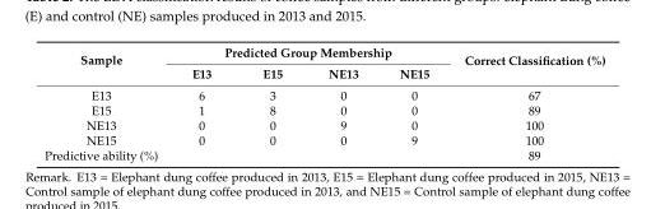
<table><thead><tr><td rowspan="2">Sample</td><td colspan="4">Predicted Group Membership</td><td rowspan="2">Correct Classification (%)</td></tr><tr><td>E13</td><td>E15</td><td>NE13</td><td>NE15</td></tr></thead><tbody><tr><td>E13</td><td>6</td><td>3</td><td>0</td><td>0</td><td>67</td></tr><tr><td>E15</td><td>1</td><td>8</td><td>0</td><td>0</td><td>89</td></tr><tr><td>NE13</td><td>0</td><td>0</td><td>9</td><td>0</td><td>100</td></tr><tr><td>NE15</td><td>0</td><td>0</td><td>0</td><td>9</td><td>100</td></tr><tr><td>Predictive ability (%)</td><td></td><td></td><td></td><td></td><td>89</td></tr></tbody></table>